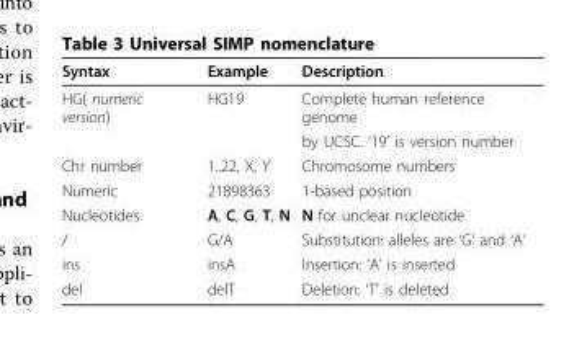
<table><thead><tr><td>Syntax</td><td>Example</td><td>Description</td></tr></thead><tbody><tr><td rowspan="2">HG( numeric version)</td><td>HG19</td><td>Complete human reference genome</td></tr><tr><td></td><td>by UCSC. ‘19’ is version number</td></tr><tr><td>Chr number</td><td>1..22, X, Y</td><td>Chromosome numbers</td></tr><tr><td>Numeric</td><td>21898363</td><td>1-based position</td></tr><tr><td>Nucleotides</td><td>A, C, G, T, N</td><td>N for unclear nucleotide</td></tr><tr><td>/</td><td>G/A</td><td>Substitution: alleles are ‘G’ and ‘A’</td></tr><tr><td>ins</td><td>insA</td><td>Insertion: ‘A’ is inserted</td></tr><tr><td>del</td><td>delT</td><td>Deletion: ‘T’ is deleted</td></tr></tbody></table>